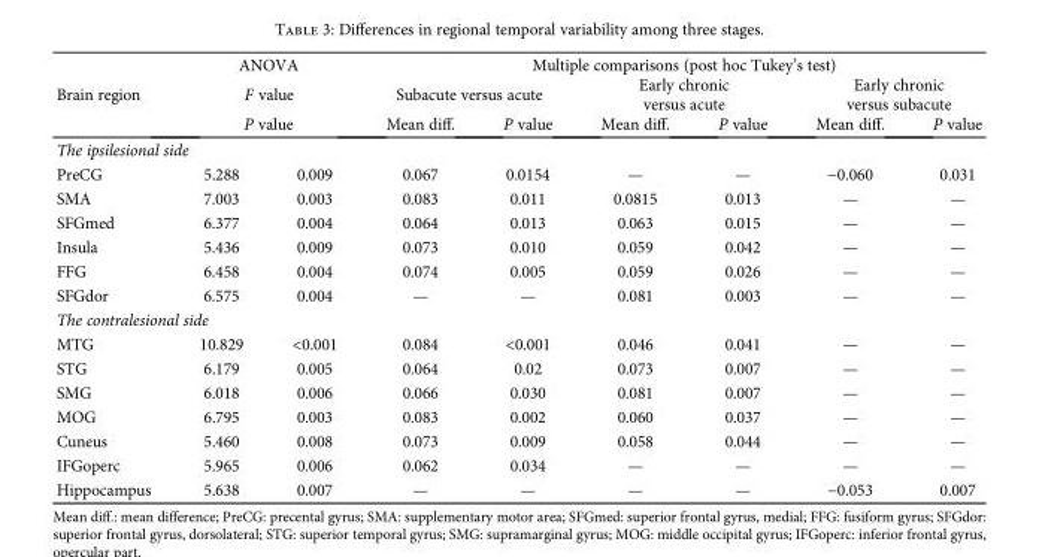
<table><thead><tr><td rowspan="3">Brain region</td><td rowspan="3" colspan="2">ANOVA F value P value</td><td colspan="6">Multiple comparisons (post hoc Tukey’s test)</td></tr><tr><td colspan="2">Subacute versus acute</td><td colspan="2">Early chronic versus acute</td><td colspan="2">Early chronic versus subacute</td></tr><tr><td>Mean diff.</td><td>P value</td><td>Mean diff.</td><td>P value</td><td>Mean diff.</td><td>P value</td></tr><tr><td colspan="9">The ipsilesional side</td></tr><tr><td>PreCG</td><td>5.288</td><td>0.009</td><td>0.067</td><td>0.0154</td><td>—</td><td>—</td><td>−0.060</td><td>0.031</td></tr></thead><tbody><tr><td>SMA</td><td>7.003</td><td>0.003</td><td>0.083</td><td>0.011</td><td>0.0815</td><td>0.013</td><td>—</td><td>—</td></tr><tr><td>SFGmed</td><td>6.377</td><td>0.004</td><td>0.064</td><td>0.013</td><td>0.063</td><td>0.015</td><td>—</td><td>—</td></tr><tr><td>Insula</td><td>5.436</td><td>0.009</td><td>0.073</td><td>0.010</td><td>0.059</td><td>0.042</td><td>—</td><td>—</td></tr><tr><td>FFG</td><td>6.458</td><td>0.004</td><td>0.074</td><td>0.005</td><td>0.059</td><td>0.026</td><td>—</td><td>—</td></tr><tr><td>SFGdor</td><td>6.575</td><td>0.004</td><td>—</td><td>—</td><td>0.081</td><td>0.003</td><td>—</td><td>—</td></tr><tr><td colspan="9">The contralesional side</td></tr><tr><td>MTG</td><td>10.829</td><td>&lt;0.001</td><td>0.084</td><td>&lt;0.001</td><td>0.046</td><td>0.041</td><td>—</td><td>—</td></tr><tr><td>STG</td><td>6.179</td><td>0.005</td><td>0.064</td><td>0.02</td><td>0.073</td><td>0.007</td><td>—</td><td>—</td></tr><tr><td>SMG</td><td>6.018</td><td>0.006</td><td>0.066</td><td>0.030</td><td>0.081</td><td>0.007</td><td>—</td><td>—</td></tr><tr><td>MOG</td><td>6.795</td><td>0.003</td><td>0.083</td><td>0.002</td><td>0.060</td><td>0.037</td><td>—</td><td>—</td></tr><tr><td>Cuneus</td><td>5.460</td><td>0.008</td><td>0.073</td><td>0.009</td><td>0.058</td><td>0.044</td><td>—</td><td>—</td></tr><tr><td>IFGoperc</td><td>5.965</td><td>0.006</td><td>0.062</td><td>0.034</td><td>—</td><td>—</td><td>—</td><td>—</td></tr><tr><td>Hippocampus</td><td>5.638</td><td>0.007</td><td>—</td><td>—</td><td>—</td><td>—</td><td>−0.053</td><td>0.007</td></tr></tbody></table>